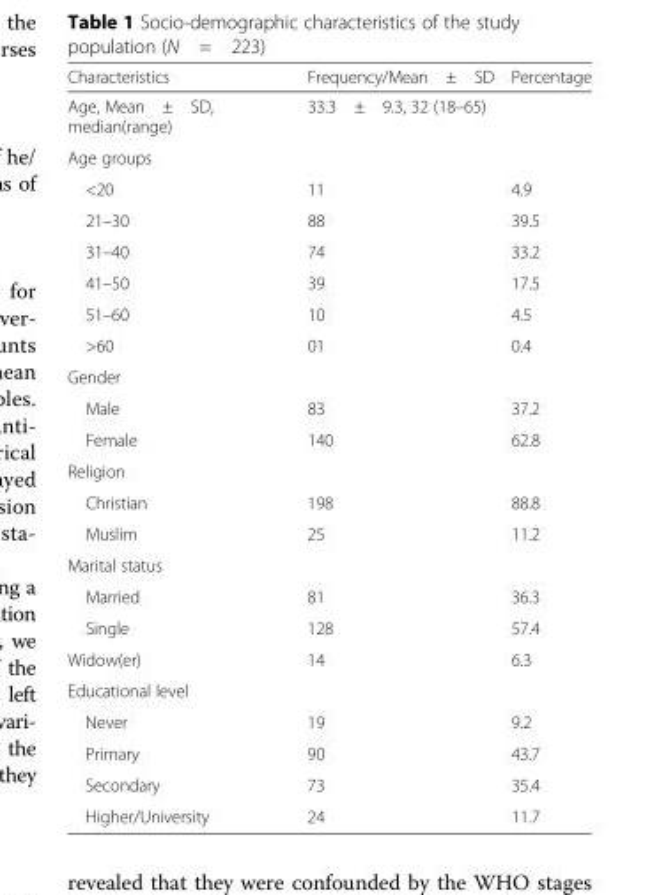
<table><thead><tr><td>Characteristics</td><td>Frequency/Mean ± SD</td><td>Percentage</td></tr></thead><tbody><tr><td>Age, Mean ± SD, median(range)</td><td>33.3 ± 9.3, 32 (18–65)</td><td></td></tr><tr><td colspan="3">Age groups</td></tr><tr><td>&lt;20</td><td>11</td><td>4.9</td></tr><tr><td>21–30</td><td>88</td><td>39.5</td></tr><tr><td>31–40</td><td>74</td><td>33.2</td></tr><tr><td>41–50</td><td>39</td><td>17.5</td></tr><tr><td>51–60</td><td>10</td><td>4.5</td></tr><tr><td>&gt;60</td><td>01</td><td>0.4</td></tr><tr><td colspan="3">Gender</td></tr><tr><td>Male</td><td>83</td><td>37.2</td></tr><tr><td>Female</td><td>140</td><td>62.8</td></tr><tr><td colspan="3">Religion</td></tr><tr><td>Christian</td><td>198</td><td>88.8</td></tr><tr><td>Muslim</td><td>25</td><td>11.2</td></tr><tr><td colspan="3">Marital status</td></tr><tr><td>Married</td><td>81</td><td>36.3</td></tr><tr><td>Single</td><td>128</td><td>57.4</td></tr><tr><td>Widow(er)</td><td>14</td><td>6.3</td></tr><tr><td colspan="3">Educational level</td></tr><tr><td>Never</td><td>19</td><td>9.2</td></tr><tr><td>Primary</td><td>90</td><td>43.7</td></tr><tr><td>Secondary</td><td>73</td><td>35.4</td></tr><tr><td>Higher/University</td><td>24</td><td>11.7</td></tr></tbody></table>